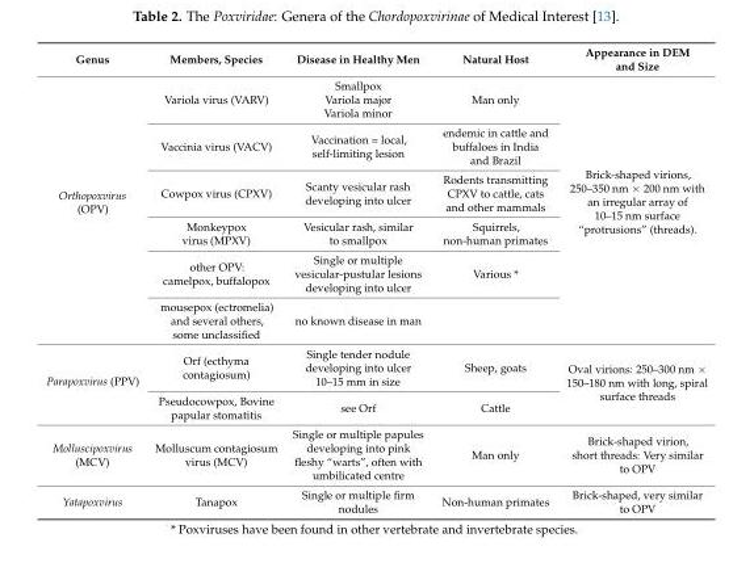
<table><thead><tr><td>Genus</td><td>Members, Species</td><td>Disease in Healthy Men</td><td>Natural Host</td><td>Appearance in DEM and Size</td></tr></thead><tbody><tr><td rowspan="6">Orthopoxvirus (OPV)</td><td>Variola virus (VARV)</td><td>Smallpox Variola major Variola minor</td><td>Man only</td><td rowspan="6">Brick-shaped virions, 250–350 nm × 200 nm with an irregular array of 10–15 nm surface “protrusions” (threads).</td></tr><tr><td>Vaccinia virus (VACV)</td><td>Vaccination = local, self-limiting lesion</td><td>endemic in cattle and buffaloes in India and Brazil</td></tr><tr><td>Cowpox virus (CPXV)</td><td>Scanty vesicular rash developing into ulcer</td><td>Rodents transmitting CPXV to cattle, cats and other mammals</td></tr><tr><td>Monkeypox virus (MPXV)</td><td>Vesicular rash, similar to smallpox</td><td>Squirrels, non-human primates</td></tr><tr><td>other OPV: camelpox, buffalopox</td><td>Single or multiple vesicular-pustular lesions developing into ulcer</td><td>Various *</td></tr><tr><td>mousepox (ectromelia) and several others, some unclassified</td><td>no known disease in man</td><td></td></tr><tr><td rowspan="2">Parapoxvirus (PPV)</td><td>Orf (ecthyma contagiosum)</td><td>Single tender nodule developing into ulcer 10–15 mm in size</td><td>Sheep, goats</td><td rowspan="2">Oval virions: 250–300 nm × 150–180 nm with long, spiral surface threads</td></tr><tr><td>Pseudocowpox, Bovine papular stomatitis</td><td>see Orf</td><td>Cattle</td></tr><tr><td>Molluscipoxvirus (MCV)</td><td>Molluscum contagiosum virus (MCV)</td><td>Single or multiple papules developing into pink fleshy “warts”, often with umbilicated centre</td><td>Man only</td><td>Brick-shaped virion, short threads: Very similar to OPV</td></tr><tr><td>Yatapoxvirus</td><td>Tanapox</td><td>Single or multiple firm nodules</td><td>Non-human primates</td><td>Brick-shaped, very similar to OPV</td></tr></tbody></table>